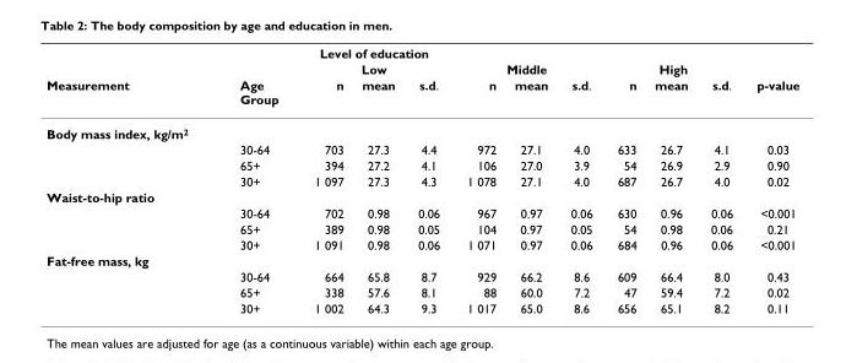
<table><thead><tr><td rowspan="3">Measurement</td><td rowspan="3">Age Group</td><td rowspan="2" colspan="3">Level of education Low</td><td></td><td></td><td></td><td></td><td></td><td></td><td rowspan="3">p-value</td></tr><tr><td colspan="3">Middle</td><td colspan="3">High</td></tr><tr><td>n</td><td>mean</td><td>s.d.</td><td>n</td><td>mean</td><td>s.d.</td><td>n</td><td>mean</td><td>s.d.</td></tr></thead><tbody><tr><td colspan="12">Body mass index, kg/m<sup>2</sup></td></tr><tr><td></td><td>30-64</td><td>703</td><td>27.3</td><td>4.4</td><td>972</td><td>27.1</td><td>4.0</td><td>633</td><td>26.7</td><td>4.1</td><td>0.03</td></tr><tr><td></td><td>65+</td><td>394</td><td>27.2</td><td>4.1</td><td>106</td><td>27.0</td><td>3.9</td><td>54</td><td>26.9</td><td>2.9</td><td>0.90</td></tr><tr><td></td><td>30+</td><td>1 097</td><td>27.3</td><td>4.3</td><td>1 078</td><td>27.1</td><td>4.0</td><td>687</td><td>26.7</td><td>4.0</td><td>0.02</td></tr><tr><td colspan="12">Waist-to-hip ratio</td></tr><tr><td></td><td>30-64</td><td>702</td><td>0.98</td><td>0.06</td><td>967</td><td>0.97</td><td>0.06</td><td>630</td><td>0.96</td><td>0.06</td><td>&lt;0.001</td></tr><tr><td></td><td>65+</td><td>389</td><td>0.98</td><td>0.05</td><td>104</td><td>0.97</td><td>0.05</td><td>54</td><td>0.98</td><td>0.06</td><td>0.21</td></tr><tr><td></td><td>30+</td><td>1 091</td><td>0.98</td><td>0.06</td><td>1 071</td><td>0.97</td><td>0.06</td><td>684</td><td>0.96</td><td>0.06</td><td>&lt;0.001</td></tr><tr><td colspan="12">Fat-free mass, kg</td></tr><tr><td></td><td>30-64</td><td>664</td><td>65.8</td><td>8.7</td><td>929</td><td>66.2</td><td>8.6</td><td>609</td><td>66.4</td><td>8.0</td><td>0.43</td></tr><tr><td></td><td>65+</td><td>338</td><td>57.6</td><td>8.1</td><td>88</td><td>60.0</td><td>7.2</td><td>47</td><td>59.4</td><td>7.2</td><td>0.02</td></tr><tr><td></td><td>30+</td><td>1 002</td><td>64.3</td><td>9.3</td><td>1 017</td><td>65.0</td><td>8.6</td><td>656</td><td>65.1</td><td>8.2</td><td>0.11</td></tr></tbody></table>